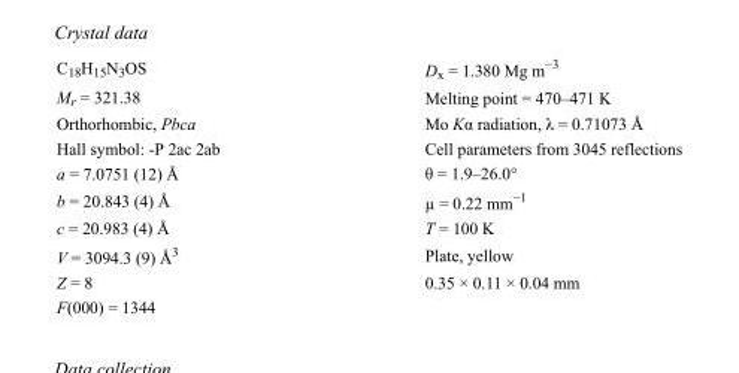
<table><tbody><tr><td>C<sub>18</sub>H<sub>15</sub>N<sub>3</sub>OS</td><td>D<sub>x</sub> = 1.380 Mg m<sup>−3</sup></td></tr><tr><td>M<sub>r</sub> = 321.38</td><td>Melting point = 470–471 K</td></tr><tr><td>Orthorhombic, Pbca</td><td>Mo Kα radiation, λ = 0.71073 Å</td></tr><tr><td>Hall symbol: -P 2ac 2ab</td><td>Cell parameters from 3045 reflections</td></tr><tr><td>a = 7.0751 (12) Å</td><td>θ = 1.9–26.0°</td></tr><tr><td>b = 20.843 (4) Å</td><td>µ = 0.22 mm<sup>−1</sup></td></tr><tr><td>c = 20.983 (4) Å</td><td>T = 100 K</td></tr><tr><td>V = 3094.3 (9) Å<sup>3</sup></td><td>Plate, yellow</td></tr><tr><td>Z = 8</td><td>0.35 × 0.11 × 0.04 mm</td></tr><tr><td>F(000) = 1344</td><td></td></tr></tbody></table>